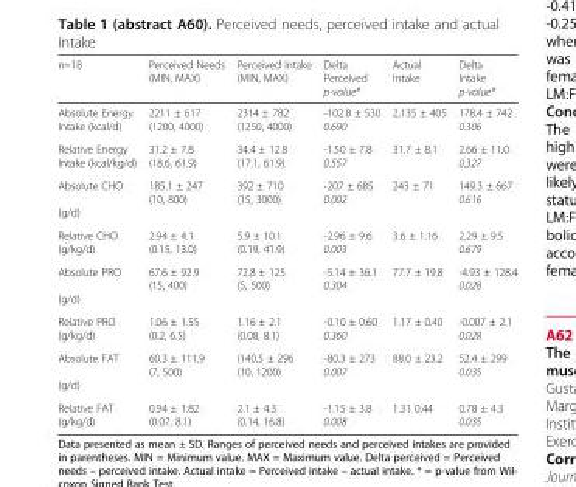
<table><thead><tr><td>n=18</td><td>Perceived Needs (MIN, MAX)</td><td>Perceived Intake (MIN, MAX)</td><td>Delta Perceived p-value*</td><td>Actual Intake</td><td>Delta Intake p-value*</td></tr></thead><tbody><tr><td>Absolute Energy Intake (kcal/d)</td><td>2211 ± 617 (1200, 4000)</td><td>2314 ± 782 (1250, 4000)</td><td>-102.8 ± 530 0.690</td><td>2,135 ± 405</td><td>178.4 ± 742 0.306</td></tr><tr><td>Relative Energy Intake (kcal/kg/d)</td><td>31.2 ± 7.8 (18.6, 61.9)</td><td>34.4 ± 12.8 (17.1, 61.9)</td><td>-1.50 ± 7.8 0.557</td><td>31.7 ± 8.1</td><td>2.66 ± 11.0 0.327</td></tr><tr><td>Absolute CHO (g/d)</td><td>185.1 ± 247 (10, 800)</td><td>392 ± 710 (15, 3000)</td><td>-207 ± 685 0.002</td><td>243 ± 71</td><td>149.3 ± 667 0.616</td></tr><tr><td>Relative CHO (g/kg/d)</td><td>2.94 ± 4.1 (0.15, 13.0)</td><td>5.9 ± 10.1 (0.19, 41.9)</td><td>-2.96 ± 9.6 0.003</td><td>3.6 ± 1.16</td><td>2.29 ± 9.5 0.679</td></tr><tr><td>Absolute PRO (g/d)</td><td>67.6 ± 92.9 (15, 400)</td><td>72.8 ± 125 (5, 500)</td><td>-5.14 ± 36.1 0.304</td><td>77.7 ± 19.8</td><td>-4.93 ± 128.4 0.028</td></tr><tr><td>Relative PRO (g/kg/d)</td><td>1.06 ± 1.55 (0.2, 6.5)</td><td>1.16 ± 2.1 (0.08, 8.1)</td><td>-0.10 ± 0.60 0.360</td><td>1.17 ± 0.40</td><td>-0.007 ± 2.1 0.028</td></tr><tr><td>Absolute FAT (g/d)</td><td>60.3 ± 111.9 (7, 500)</td><td>(140.5 ± 296 (10, 1200)</td><td>-80.3 ± 273 0.007</td><td>88.0 ± 23.2</td><td>52.4 ± 299 0.035</td></tr><tr><td>Relative FAT (g/kg/d)</td><td>0.94 ± 1.82 (0.07, 8.1)</td><td>2.1 ± 4.3 (0.14, 16.8)</td><td>-1.15 ± 3.8 0.008</td><td>1.31 0.44</td><td>0.78 ± 4.3 0.035</td></tr></tbody></table>